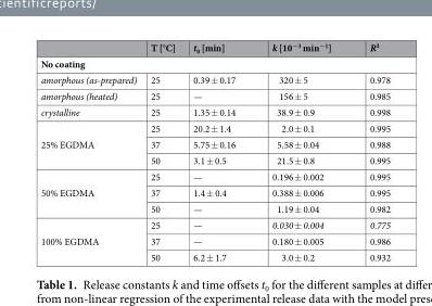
<table><thead><tr><td></td><td>T [°C]</td><td>t<sub>0</sub> [min]</td><td>k [10<sup>−3</sup> min<sup>−1</sup>]</td><td>R²</td></tr></thead><tbody><tr><td colspan="5">No coating</td></tr><tr><td>amorphous (as-prepared)</td><td>25</td><td>0.39 ± 0.17</td><td>320 ± 5</td><td>0.978</td></tr><tr><td>amorphous (heated)</td><td>25</td><td>—</td><td>156 ± 5</td><td>0.985</td></tr><tr><td>crystalline</td><td>25</td><td>1.35 ± 0.14</td><td>38.9 ± 0.9</td><td>0.998</td></tr><tr><td rowspan="3">25% EGDMA</td><td>25</td><td>20.2 ± 1.4</td><td>2.0 ± 0.1</td><td>0.995</td></tr><tr><td>37</td><td>5.75 ± 0.16</td><td>5.58 ± 0.04</td><td>0.988</td></tr><tr><td>50</td><td>3.1 ± 0.5</td><td>21.5 ± 0.8</td><td>0.995</td></tr><tr><td rowspan="3">50% EGDMA</td><td>25</td><td>—</td><td>0.196 ± 0.002</td><td>0.995</td></tr><tr><td>37</td><td>1.4 ± 0.4</td><td>0.388 ± 0.006</td><td>0.995</td></tr><tr><td>50</td><td>—</td><td>1.19 ± 0.04</td><td>0.982</td></tr><tr><td rowspan="3">100% EGDMA</td><td>25</td><td>—</td><td>0.030 ± 0.004</td><td>0.775</td></tr><tr><td>37</td><td>—</td><td>0.180 ± 0.005</td><td>0.986</td></tr><tr><td>50</td><td>6.2 ± 1.7</td><td>3.0 ± 0.2</td><td>0.932</td></tr></tbody></table>